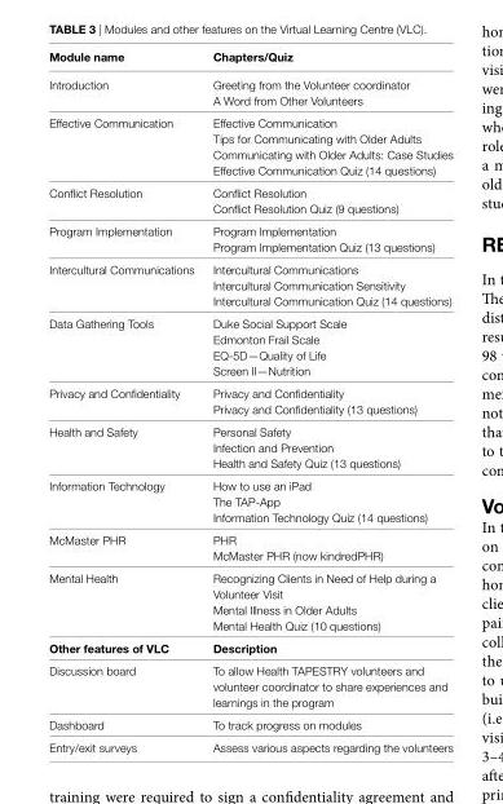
<table><thead><tr><td>module name</td><td>Chapters/Quiz</td></tr></thead><tbody><tr><td rowspan="2">Introduction</td><td>Greeting from the Volunteer coordinator</td></tr><tr><td>A Word from Other Volunteers</td></tr><tr><td rowspan="4">Effective Communication</td><td>Effective Communication</td></tr><tr><td>Tips for Communicating with Older Adults</td></tr><tr><td>Communicating with Older Adults: Case Studies</td></tr><tr><td>Effective Communication Quiz (14 questions)</td></tr><tr><td rowspan="2">Conflict Resolution</td><td>Conflict Resolution</td></tr><tr><td>Conflict Resolution Quiz (9 questions)</td></tr><tr><td rowspan="2">Program Implementation</td><td>Program Implementation</td></tr><tr><td>Program Implementation Quiz (13 questions)</td></tr><tr><td rowspan="3">Intercultural Communications</td><td>Intercultural Communications</td></tr><tr><td>Intercultural Communication Sensitivity</td></tr><tr><td>Intercultural Communication Quiz (14 questions)</td></tr><tr><td rowspan="4">Data Gathering Tools</td><td>Duke Social Support Scale</td></tr><tr><td>Edmonton Frail Scale</td></tr><tr><td>EQ-5D—Quality of Life</td></tr><tr><td>Screen II—Nutrition</td></tr><tr><td rowspan="2">Privacy and Confidentiality</td><td>Privacy and Confidentiality</td></tr><tr><td>Privacy and Confidentiality (13 questions)</td></tr><tr><td rowspan="3">Health and Safety</td><td>Personal Safety</td></tr><tr><td>Infection and Prevention</td></tr><tr><td>Health and Safety Quiz (13 questions)</td></tr><tr><td rowspan="3">Information Technology</td><td>How to use an iPad</td></tr><tr><td>The TAP-App</td></tr><tr><td>Information Technology Quiz (14 questions)</td></tr><tr><td rowspan="2">McMaster PHR</td><td>PHR</td></tr><tr><td>McMaster PHR (now kindredPHR)</td></tr><tr><td rowspan="3">Mental Health</td><td>Recognizing Clients in Need of Help during a Volunteer Visit</td></tr><tr><td>Mental Illness in Older Adults</td></tr><tr><td>Mental Health Quiz (10 questions)</td></tr><tr><td>other features of VlC</td><td>description</td></tr><tr><td>Discussion board</td><td>To allow Health TAPESTRY volunteers and volunteer coordinator to share experiences and learnings in the program</td></tr><tr><td>Dashboard</td><td>To track progress on modules</td></tr><tr><td>Entry/exit surveys</td><td>Assess various aspects regarding the volunteers</td></tr></tbody></table>